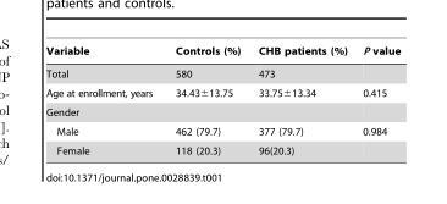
<table><thead><tr><td>Variable</td><td>Controls (%)</td><td>CHB patients (%)</td><td>P value</td></tr></thead><tbody><tr><td>Total</td><td>580</td><td>473</td><td></td></tr><tr><td>Age at enrollment, years</td><td>34.43±13.75</td><td>33.75±13.34</td><td>0.415</td></tr><tr><td colspan="4">Gender</td></tr><tr><td>Male</td><td>462 (79.7)</td><td>377 (79.7)</td><td>0.984</td></tr><tr><td>Female</td><td>118 (20.3)</td><td>96(20.3)</td><td></td></tr></tbody></table>